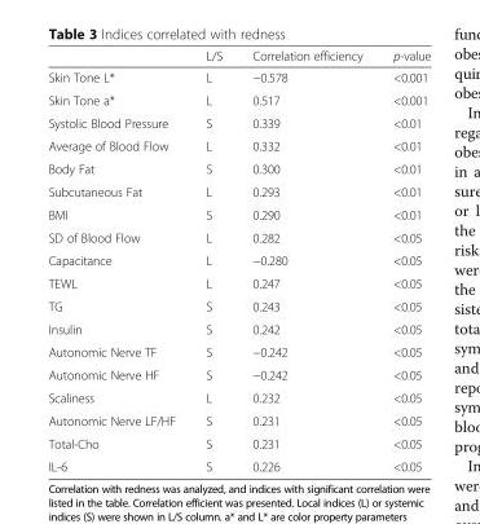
<table><thead><tr><td></td><td>L/S</td><td>Correlation efficiency</td><td>p-value</td></tr></thead><tbody><tr><td>Skin Tone L*</td><td>L</td><td>−0.578</td><td>&lt;0.001</td></tr><tr><td>Skin Tone a*</td><td>L</td><td>0.517</td><td>&lt;0.001</td></tr><tr><td>Systolic Blood Pressure</td><td>S</td><td>0.339</td><td>&lt;0.01</td></tr><tr><td>Average of Blood Flow</td><td>L</td><td>0.332</td><td>&lt;0.01</td></tr><tr><td>Body Fat</td><td>S</td><td>0.300</td><td>&lt;0.01</td></tr><tr><td>Subcutaneous Fat</td><td>L</td><td>0.293</td><td>&lt;0.01</td></tr><tr><td>BMI</td><td>S</td><td>0.290</td><td>&lt;0.01</td></tr><tr><td>SD of Blood Flow</td><td>L</td><td>0.282</td><td>&lt;0.05</td></tr><tr><td>Capacitance</td><td>L</td><td>−0.280</td><td>&lt;0.05</td></tr><tr><td>TEWL</td><td>L</td><td>0.247</td><td>&lt;0.05</td></tr><tr><td>TG</td><td>S</td><td>0.243</td><td>&lt;0.05</td></tr><tr><td>Insulin</td><td>S</td><td>0.242</td><td>&lt;0.05</td></tr><tr><td>Autonomic Nerve TF</td><td>S</td><td>−0.242</td><td>&lt;0.05</td></tr><tr><td>Autonomic Nerve HF</td><td>S</td><td>−0.242</td><td>&lt;0.05</td></tr><tr><td>Scaliness</td><td>L</td><td>0.232</td><td>&lt;0.05</td></tr><tr><td>Autonomic Nerve LF/HF</td><td>S</td><td>0.231</td><td>&lt;0.05</td></tr><tr><td>Total-Cho</td><td>S</td><td>0.231</td><td>&lt;0.05</td></tr><tr><td>IL-6</td><td>S</td><td>0.226</td><td>&lt;0.05</td></tr></tbody></table>